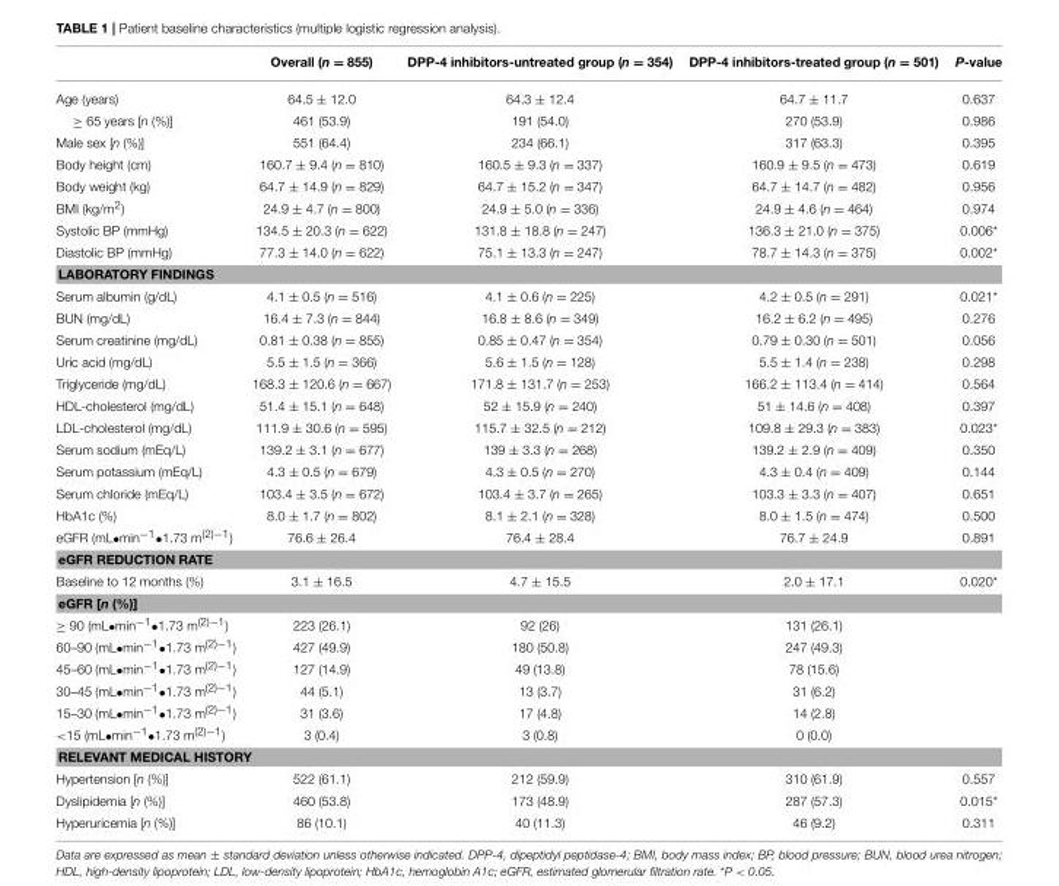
<table><thead><tr><td></td><td>Overall (n = 855)</td><td>DPP-4 inhibitors-untreated group (n = 354)</td><td>DPP-4 inhibitors-treated group (n = 501)</td><td>P-value</td></tr></thead><tbody><tr><td>Age (years)</td><td>64.5 ± 12.0</td><td>64.3 ± 12.4</td><td>64.7 ± 11.7</td><td>0.637</td></tr><tr><td>≥ 65 years [n (%)]</td><td>461 (53.9)</td><td>191 (54.0)</td><td>270 (53.9)</td><td>0.986</td></tr><tr><td>Male sex [n (%)]</td><td>551 (64.4)</td><td>234 (66.1)</td><td>317 (63.3)</td><td>0.395</td></tr><tr><td>Body height (cm)</td><td>160.7 ± 9.4 (n = 810)</td><td>160.5 ± 9.3 (n = 337)</td><td>160.9 ± 9.5 (n = 473)</td><td>0.619</td></tr><tr><td>Body weight (kg)</td><td>64.7 ± 14.9 (n = 829)</td><td>64.7 ± 15.2 (n = 347)</td><td>64.7 ± 14.7 (n = 482)</td><td>0.956</td></tr><tr><td>BMI (kg/m<sup>2</sup>)</td><td>24.9 ± 4.7 (n = 800)</td><td>24.9 ± 5.0 (n = 336)</td><td>24.9 ± 4.6 (n = 464)</td><td>0.974</td></tr><tr><td>Systolic BP (mmHg)</td><td>134.5 ± 20.3 (n = 622)</td><td>131.8 ± 18.8 (n = 247)</td><td>136.3 ± 21.0 (n = 375)</td><td>0.006*</td></tr><tr><td>Diastolic BP (mmHg)</td><td>77.3 ± 14.0 (n = 622)</td><td>75.1 ± 13.3 (n = 247)</td><td>78.7 ± 14.3 (n = 375)</td><td>0.002*</td></tr><tr><td colspan="5">LABORATORY FINDINGS</td></tr><tr><td>Serum albumin (g/dL)</td><td>4.1 ± 0.5 (n = 516)</td><td>4.1 ± 0.6 (n = 225)</td><td>4.2 ± 0.5 (n = 291)</td><td>0.021*</td></tr><tr><td>BUN (mg/dL)</td><td>16.4 ± 7.3 (n = 844)</td><td>16.8 ± 8.6 (n = 349)</td><td>16.2 ± 6.2 (n = 495)</td><td>0.276</td></tr><tr><td>Serum creatinine (mg/dL)</td><td>0.81 ± 0.38 (n = 855)</td><td>0.85 ± 0.47 (n = 354)</td><td>0.79 ± 0.30 (n = 501)</td><td>0.056</td></tr><tr><td>Uric acid (mg/dL)</td><td>5.5 ± 1.5 (n = 366)</td><td>5.6 ± 1.5 (n = 128)</td><td>5.5 ± 1.4 (n = 238)</td><td>0.298</td></tr><tr><td>Triglyceride (mg/dL)</td><td>168.3 ± 120.6 (n = 667)</td><td>171.8 ± 131.7 (n = 253)</td><td>166.2 ± 113.4 (n = 414)</td><td>0.564</td></tr><tr><td>HDL-cholesterol (mg/dL)</td><td>51.4 ± 15.1 (n = 648)</td><td>52 ± 15.9 (n = 240)</td><td>51 ± 14.6 (n = 408)</td><td>0.397</td></tr><tr><td>LDL-cholesterol (mg/dL)</td><td>111.9 ± 30.6 (n = 595)</td><td>115.7 ± 32.5 (n = 212)</td><td>109.8 ± 29.3 (n = 383)</td><td>0.023*</td></tr><tr><td>Serum sodium (mEq/L)</td><td>139.2 ± 3.1 (n = 677)</td><td>139 ± 3.3 (n = 268)</td><td>139.2 ± 2.9 (n = 409)</td><td>0.350</td></tr><tr><td>Serum potassium (mEq/L)</td><td>4.3 ± 0.5 (n = 679)</td><td>4.3 ± 0.5 (n = 270)</td><td>4.3 ± 0.4 (n = 409)</td><td>0.144</td></tr><tr><td>Serum chloride (mEq/L)</td><td>103.4 ± 3.5 (n = 672)</td><td>103.4 ± 3.7 (n = 265)</td><td>103.3 ± 3.3 (n = 407)</td><td>0.651</td></tr><tr><td>HbA1c (%)</td><td>8.0 ± 1.7 (n = 802)</td><td>8.1 ± 2.1 (n = 328)</td><td>8.0 ± 1.5 (n = 474)</td><td>0.500</td></tr><tr><td>eGFR (mL•min<sup>−1</sup>•1.73 m<sup>(2)−1</sup>)</td><td>76.6 ± 26.4</td><td>76.4 ± 28.4</td><td>76.7 ± 24.9</td><td>0.891</td></tr><tr><td colspan="5">eGFR REDUCTION RATE</td></tr><tr><td>Baseline to 12 months (%)</td><td>3.1 ± 16.5</td><td>4.7 ± 15.5</td><td>2.0 ± 17.1</td><td>0.020*</td></tr><tr><td colspan="5">eGFR [n (%)]</td></tr><tr><td>≥ 90 (mL•min<sup>−1</sup>•1.73 m<sup>(2)−1</sup>)</td><td>223 (26.1)</td><td>92 (26)</td><td>131 (26.1)</td><td></td></tr><tr><td>60–90 (mL•min<sup>−1</sup>•1.73 m<sup>(2)−1</sup>)</td><td>427 (49.9)</td><td>180 (50.8)</td><td>247 (49.3)</td><td></td></tr><tr><td>45–60 (mL•min<sup>−1</sup>•1.73 m<sup>(2)−1</sup>)</td><td>127 (14.9)</td><td>49 (13.8)</td><td>78 (15.6)</td><td></td></tr><tr><td>30–45 (mL•min<sup>−1</sup>•1.73 m<sup>(2)−1</sup>)</td><td>44 (5.1)</td><td>13 (3.7)</td><td>31 (6.2)</td><td></td></tr><tr><td>15–30 (mL•min<sup>−1</sup>•1.73 m<sup>(2)−1</sup>)</td><td>31 (3.6)</td><td>17 (4.8)</td><td>14 (2.8)</td><td></td></tr><tr><td>&lt;15 (mL•min<sup>−1</sup>•1.73 m<sup>(2)−1</sup>)</td><td>3 (0.4)</td><td>3 (0.8)</td><td>0 (0.0)</td><td></td></tr><tr><td colspan="5">RELEVANT MEDICAL HISTORY</td></tr><tr><td>Hypertension [n (%)]</td><td>522 (61.1)</td><td>212 (59.9)</td><td>310 (61.9)</td><td>0.557</td></tr><tr><td>Dyslipidemia [n (%)]</td><td>460 (53.8)</td><td>173 (48.9)</td><td>287 (57.3)</td><td>0.015*</td></tr><tr><td>Hyperuricemia [n (%)]</td><td>86 (10.1)</td><td>40 (11.3)</td><td>46 (9.2)</td><td>0.311</td></tr></tbody></table>